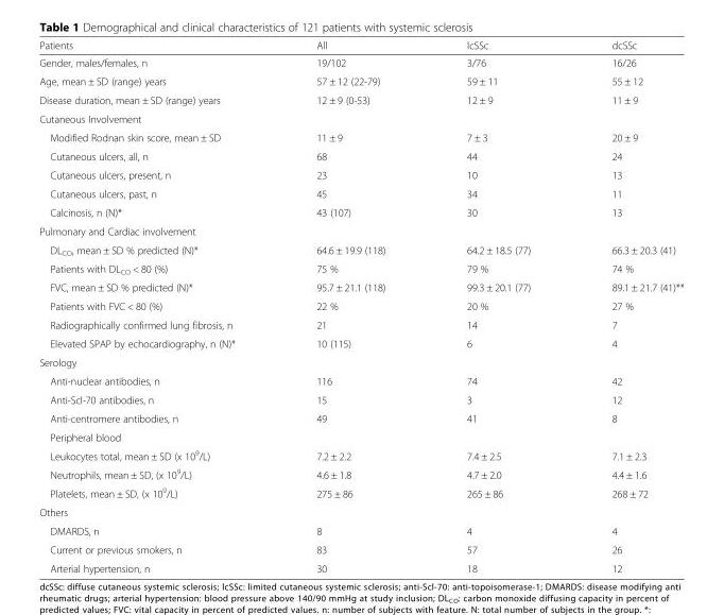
<table><thead><tr><td>Patients</td><td>All</td><td>lcSSc</td><td>dcSSc</td></tr></thead><tbody><tr><td>Gender, males/females, n</td><td>19/102</td><td>3/76</td><td>16/26</td></tr><tr><td>Age, mean ± SD (range) years</td><td>57 ± 12 (22-79)</td><td>59 ± 11</td><td>55 ± 12</td></tr><tr><td>Disease duration, mean ± SD (range) years</td><td>12 ± 9 (0-53)</td><td>12 ± 9</td><td>11 ± 9</td></tr><tr><td colspan="4">Cutaneous Involvement</td></tr><tr><td>Modified Rodnan skin score, mean ± SD</td><td>11 ± 9</td><td>7 ± 3</td><td>20 ± 9</td></tr><tr><td>Cutaneous ulcers, all, n</td><td>68</td><td>44</td><td>24</td></tr><tr><td>Cutaneous ulcers, present, n</td><td>23</td><td>10</td><td>13</td></tr><tr><td>Cutaneous ulcers, past, n</td><td>45</td><td>34</td><td>11</td></tr><tr><td>Calcinosis, n (N)*</td><td>43 (107)</td><td>30</td><td>13</td></tr><tr><td colspan="4">Pulmonary and Cardiac involvement</td></tr><tr><td>DLCO, mean ± SD % predicted (N)*</td><td>64.6 ± 19.9 (118)</td><td>64.2 ± 18.5 (77)</td><td>66.3 ± 20.3 (41)</td></tr><tr><td>Patients with DLCO &lt; 80 (%)</td><td>75 %</td><td>79 %</td><td>74 %</td></tr><tr><td>FVC, mean ± SD % predicted (N)*</td><td>95.7 ± 21.1 (118)</td><td>99.3 ± 20.1 (77)</td><td>89.1 ± 21.7 (41)**</td></tr><tr><td>Patients with FVC &lt; 80 (%)</td><td>22 %</td><td>20 %</td><td>27 %</td></tr><tr><td>Radiographically confirmed lung fibrosis, n</td><td>21</td><td>14</td><td>7</td></tr><tr><td>Elevated SPAP by echocardiography, n (N)*</td><td>10 (115)</td><td>6</td><td>4</td></tr><tr><td colspan="4">Serology</td></tr><tr><td>Anti-nuclear antibodies, n</td><td>116</td><td>74</td><td>42</td></tr><tr><td>Anti-Scl-70 antibodies, n</td><td>15</td><td>3</td><td>12</td></tr><tr><td>Anti-centromere antibodies, n</td><td>49</td><td>41</td><td>8</td></tr><tr><td colspan="4">Peripheral blood</td></tr><tr><td>Leukocytes total, mean ± SD (x 109/L)</td><td>7.2 ± 2.2</td><td>7.4 ± 2.5</td><td>7.1 ± 2.3</td></tr><tr><td>Neutrophils, mean ± SD, (x 109/L)</td><td>4.6 ± 1.8</td><td>4.7 ± 2.0</td><td>4.4 ± 1.6</td></tr><tr><td>Platelets, mean ± SD, (x 109/L)</td><td>275 ± 86</td><td>265 ± 86</td><td>268 ± 72</td></tr><tr><td colspan="4">Others</td></tr><tr><td>DMARDS, n</td><td>8</td><td>4</td><td>4</td></tr><tr><td>Current or previous smokers, n</td><td>83</td><td>57</td><td>26</td></tr><tr><td>Arterial hypertension, n</td><td>30</td><td>18</td><td>12</td></tr></tbody></table>